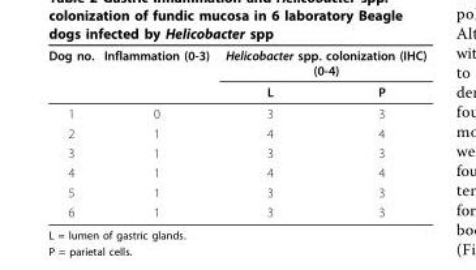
<table><thead><tr><td rowspan="2">Dog no.</td><td rowspan="2">Inflammation (0-3)</td><td colspan="2">Helicobacter spp. colonization (IHC) (0-4)</td></tr><tr><td>L</td><td>P</td></tr></thead><tbody><tr><td>1</td><td>0</td><td>3</td><td>3</td></tr><tr><td>2</td><td>1</td><td>4</td><td>4</td></tr><tr><td>3</td><td>1</td><td>3</td><td>3</td></tr><tr><td>4</td><td>1</td><td>4</td><td>4</td></tr><tr><td>5</td><td>1</td><td>3</td><td>3</td></tr><tr><td>6</td><td>1</td><td>3</td><td>3</td></tr></tbody></table>